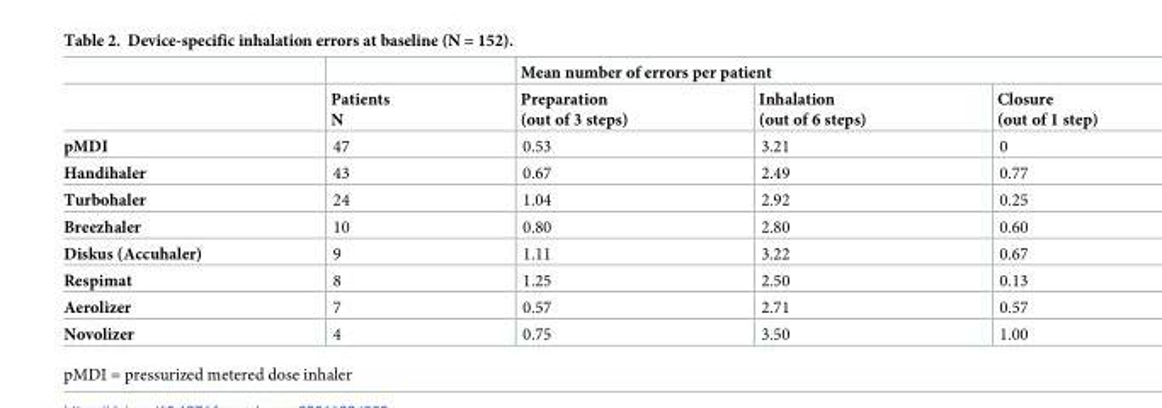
<table><thead><tr><td rowspan="2"></td><td rowspan="2">Patients N</td><td colspan="3">Mean number of errors per patient</td></tr><tr><td>Preparation (out of 3 steps)</td><td>Inhalation (out of 6 steps)</td><td>Closure (out of 1 step)</td></tr></thead><tbody><tr><td>pMDI</td><td>47</td><td>0.53</td><td>3.21</td><td>0</td></tr><tr><td>Handihaler</td><td>43</td><td>0.67</td><td>2.49</td><td>0.77</td></tr><tr><td>Turbohaler</td><td>24</td><td>1.04</td><td>2.92</td><td>0.25</td></tr><tr><td>Breezhaler</td><td>10</td><td>0.80</td><td>2.80</td><td>0.60</td></tr><tr><td>Diskus (Accuhaler)</td><td>9</td><td>1.11</td><td>3.22</td><td>0.67</td></tr><tr><td>Respimat</td><td>8</td><td>1.25</td><td>2.50</td><td>0.13</td></tr><tr><td>Aerolizer</td><td>7</td><td>0.57</td><td>2.71</td><td>0.57</td></tr><tr><td>Novolizer</td><td>4</td><td>0.75</td><td>3.50</td><td>1.00</td></tr></tbody></table>